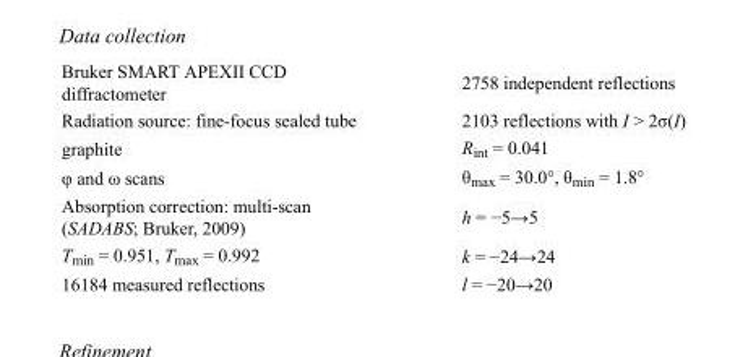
<table><tbody><tr><td>Bruker SMART APEXII CCD diffractometer</td><td>2758 independent reflections</td></tr><tr><td>Radiation source: fine-focus sealed tube</td><td>2103 reflections with I &gt; 2σ(I)</td></tr><tr><td>graphite</td><td>R<sub>int</sub> = 0.041</td></tr><tr><td>φ and ω scans</td><td>θ<sub>max</sub> = 30.0°, θ<sub>min</sub> = 1.8°</td></tr><tr><td>Absorption correction: multi-scan (SADABS; Bruker, 2009)</td><td>h = −5→5</td></tr><tr><td>T<sub>min</sub> = 0.951, T<sub>max</sub> = 0.992</td><td>k = −24→24</td></tr><tr><td>16184 measured reflections</td><td>l = −20→20</td></tr></tbody></table>